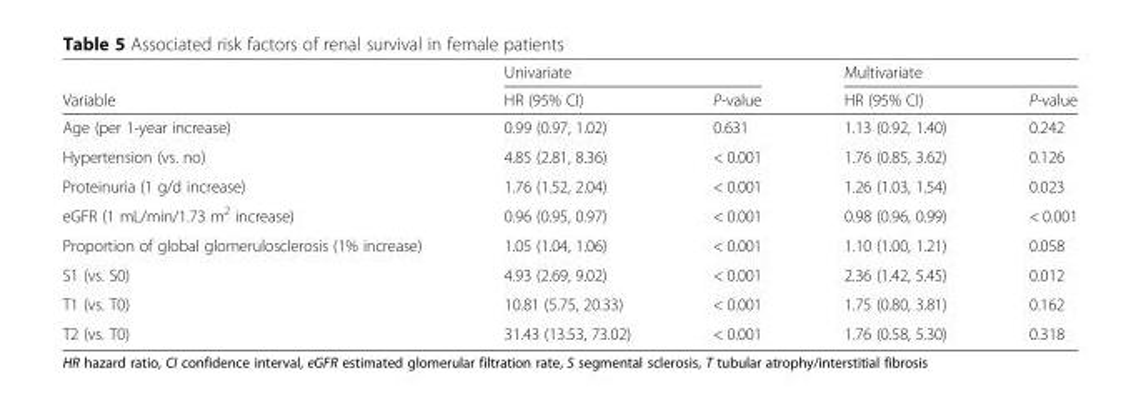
<table><thead><tr><td rowspan="2">Variable</td><td colspan="2">Univariate</td><td colspan="2">Multivariate</td></tr><tr><td>HR (95% CI)</td><td>P-value</td><td>HR (95% CI)</td><td>P-value</td></tr></thead><tbody><tr><td>Age (per 1-year increase)</td><td>0.99 (0.97, 1.02)</td><td>0.631</td><td>1.13 (0.92, 1.40)</td><td>0.242</td></tr><tr><td>Hypertension (vs. no)</td><td>4.85 (2.81, 8.36)</td><td>&lt; 0.001</td><td>1.76 (0.85, 3.62)</td><td>0.126</td></tr><tr><td>Proteinuria (1 g/d increase)</td><td>1.76 (1.52, 2.04)</td><td>&lt; 0.001</td><td>1.26 (1.03, 1.54)</td><td>0.023</td></tr><tr><td>eGFR (1 mL/min/1.73 m<sup>2</sup> increase)</td><td>0.96 (0.95, 0.97)</td><td>&lt; 0.001</td><td>0.98 (0.96, 0.99)</td><td>&lt; 0.001</td></tr><tr><td>Proportion of global glomerulosclerosis (1% increase)</td><td>1.05 (1.04, 1.06)</td><td>&lt; 0.001</td><td>1.10 (1.00, 1.21)</td><td>0.058</td></tr><tr><td>S1 (vs. S0)</td><td>4.93 (2.69, 9.02)</td><td>&lt; 0.001</td><td>2.36 (1.42, 5.45)</td><td>0.012</td></tr><tr><td>T1 (vs. T0)</td><td>10.81 (5.75, 20.33)</td><td>&lt; 0.001</td><td>1.75 (0.80, 3.81)</td><td>0.162</td></tr><tr><td>T2 (vs. T0)</td><td>31.43 (13.53, 73.02)</td><td>&lt; 0.001</td><td>1.76 (0.58, 5.30)</td><td>0.318</td></tr></tbody></table>